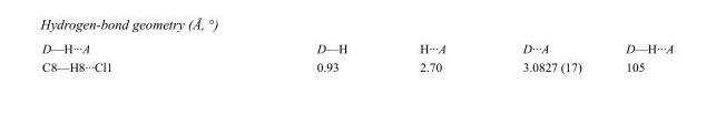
<table><tbody><tr><td>D—H···A</td><td>D—H</td><td>H···A</td><td>D···A</td><td>D—H···A</td></tr><tr><td>C8—H8···Cl1</td><td>0.93</td><td>2.70</td><td>3.0827 (17)</td><td>105</td></tr></tbody></table>